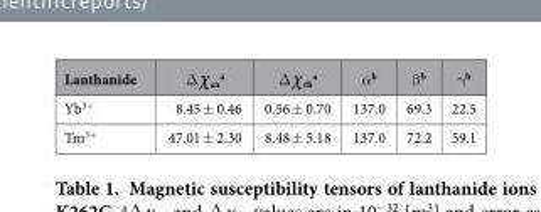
<table><thead><tr><td>Lanthanide</td><td>Δ χ <sub>ax</sub> <sup>a</sup></td><td>Δ χ <sub>rh</sub> <sup>a</sup></td><td>α <sup>b</sup></td><td>β <sup>b</sup></td><td>γ <sup>b</sup></td></tr></thead><tbody><tr><td>Yb<sup>3+</sup></td><td>8.45 ± 0.46</td><td>0.56 ± 0.70</td><td>137.0</td><td>69.3</td><td>22.5</td></tr><tr><td>Tm<sup>3+</sup></td><td>47.01 ± 2.30</td><td>8.48 ± 5.18</td><td>137.0</td><td>72.2</td><td>59.1</td></tr></tbody></table>